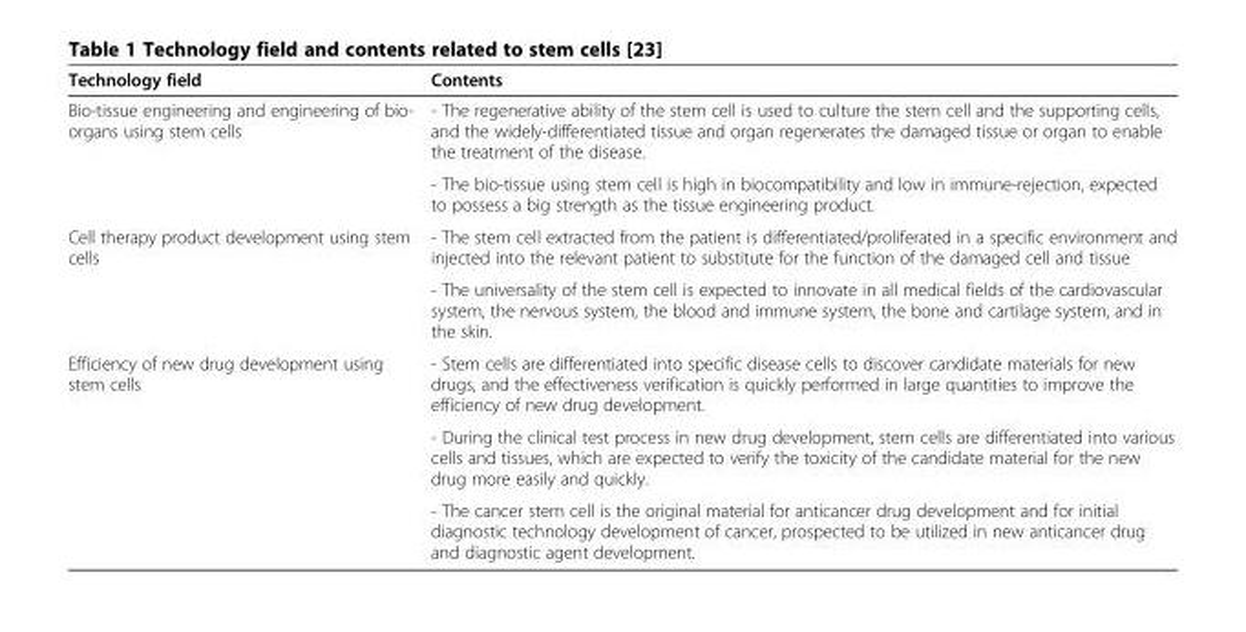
<table><thead><tr><td>Technology field</td><td>Contents</td></tr></thead><tbody><tr><td rowspan="2">Bio-tissue engineering and engineering of bio- organs using stem cells</td><td>- The regenerative ability of the stem cell is used to culture the stem cell and the supporting cells, and the widely-differentiated tissue and organ regenerates the damaged tissue or organ to enable the treatment of the disease.</td></tr><tr><td>- The bio-tissue using stem cell is high in biocompatibility and low in immune-rejection, expected to possess a big strength as the tissue engineering product.</td></tr><tr><td rowspan="2">Cell therapy product development using stem cells</td><td>- The stem cell extracted from the patient is differentiated/proliferated in a specific environment and injected into the relevant patient to substitute for the function of the damaged cell and tissue</td></tr><tr><td>- The universality of the stem cell is expected to innovate in all medical fields of the cardiovascular system, the nervous system, the blood and immune system, the bone and cartilage system, and in the skin.</td></tr><tr><td rowspan="3">Efficiency of new drug development using stem cells</td><td>- Stem cells are differentiated into specific disease cells to discover candidate materials for new drugs, and the effectiveness verification is quickly performed in large quantities to improve the efficiency of new drug development.</td></tr><tr><td>- During the clinical test process in new drug development, stem cells are differentiated into various cells and tissues, which are expected to verify the toxicity of the candidate material for the new drug more easily and quickly.</td></tr><tr><td>- The cancer stem cell is the original material for anticancer drug development and for initial diagnostic technology development of cancer, prospected to be utilized in new anticancer drug and diagnostic agent development.</td></tr></tbody></table>